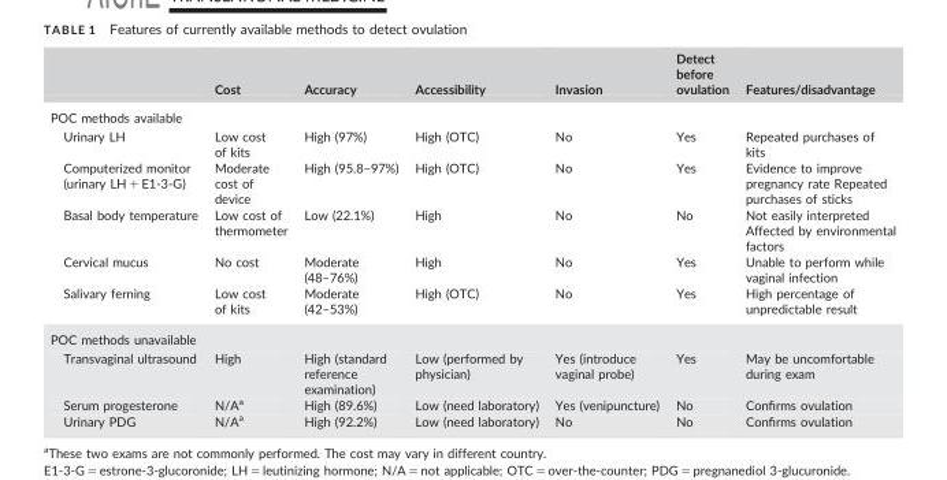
<table><thead><tr><td></td><td>Cost</td><td>Accuracy</td><td>Accessibility</td><td>Invasion</td><td>Detect before ovulation</td><td>Features/disadvantage</td></tr></thead><tbody><tr><td colspan="7">POC methods available</td></tr><tr><td>Urinary LH</td><td>Low cost of kits</td><td>High (97%)</td><td>High (OTC)</td><td>No</td><td>Yes</td><td>Repeated purchases of kits</td></tr><tr><td>Computerized monitor (urinary LH + E1-3-G)</td><td>Moderate cost of device</td><td>High (95.8–97%)</td><td>High (OTC)</td><td>No</td><td>Yes</td><td>Evidence to improve pregnancy rate Repeated purchases of sticks</td></tr><tr><td>Basal body temperature</td><td>Low cost of thermometer</td><td>Low (22.1%)</td><td>High</td><td>No</td><td>No</td><td>Not easily interpreted Affected by environmental factors</td></tr><tr><td>Cervical mucus</td><td>No cost</td><td>Moderate (48–76%)</td><td>High</td><td>No</td><td>Yes</td><td>Unable to perform while vaginal infection</td></tr><tr><td>Salivary ferning</td><td>Low cost of kits</td><td>Moderate (42–53%)</td><td>High (OTC)</td><td>No</td><td>Yes</td><td>High percentage of unpredictable result</td></tr><tr><td colspan="7">POC methods unavailable</td></tr><tr><td>Transvaginal ultrasound</td><td>High</td><td>High (standard reference examination)</td><td>Low (performed by physician)</td><td>Yes (introduce vaginal probe)</td><td>Yes</td><td>May be uncomfortable during exam</td></tr><tr><td>Serum progesterone</td><td>N/A<sup>a</sup></td><td>High (89.6%)</td><td>Low (need laboratory)</td><td>Yes (venipuncture)</td><td>No</td><td>Confirms ovulation</td></tr><tr><td>Urinary PDG</td><td>N/A<sup>a</sup></td><td>High (92.2%)</td><td>Low (need laboratory)</td><td>No</td><td>No</td><td>Confirms ovulation</td></tr></tbody></table>